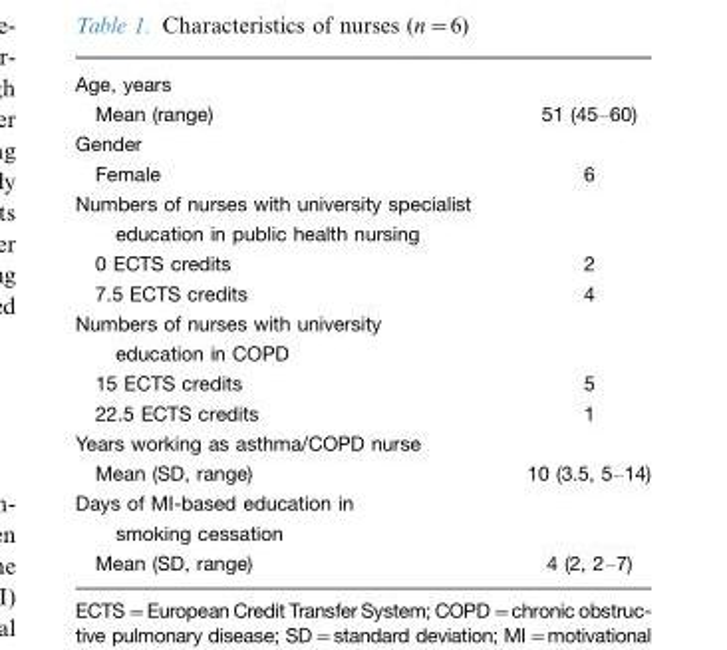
<table><tbody><tr><td colspan="2">Age, years</td></tr><tr><td>Mean (range)</td><td>51 (45–60)</td></tr><tr><td colspan="2">Gender</td></tr><tr><td>Female</td><td>6</td></tr><tr><td colspan="2">Numbers of nurses with university specialist education in public health nursing</td></tr><tr><td>0 ECTS credits</td><td>2</td></tr><tr><td>7.5 ECTS credits</td><td>4</td></tr><tr><td colspan="2">Numbers of nurses with university education in COPD</td></tr><tr><td>15 ECTS credits</td><td>5</td></tr><tr><td>22.5 ECTS credits</td><td>1</td></tr><tr><td colspan="2">Years working as asthma/COPD nurse</td></tr><tr><td>Mean (SD, range)</td><td>10 (3.5, 5–14)</td></tr><tr><td colspan="2">Days of MI-based education in smoking cessation</td></tr><tr><td>Mean (SD, range)</td><td>4 (2, 2–7)</td></tr></tbody></table>